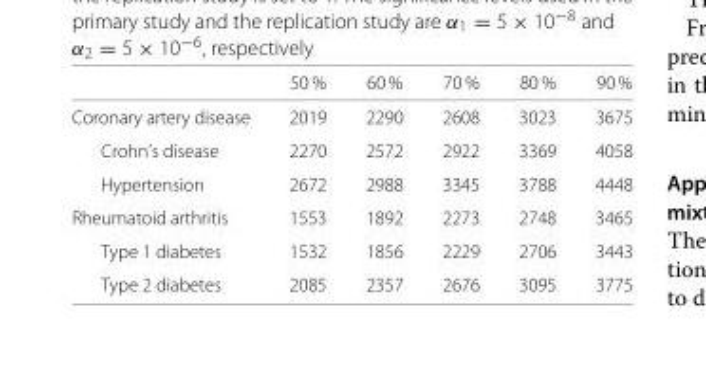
<table><thead><tr><td></td><td>50 %</td><td>60 %</td><td>70 %</td><td>80 %</td><td>90 %</td></tr></thead><tbody><tr><td>Coronary artery disease</td><td>2019</td><td>2290</td><td>2608</td><td>3023</td><td>3675</td></tr><tr><td>Crohn’s disease</td><td>2270</td><td>2572</td><td>2922</td><td>3369</td><td>4058</td></tr><tr><td>Hypertension</td><td>2672</td><td>2988</td><td>3345</td><td>3788</td><td>4448</td></tr><tr><td>Rheumatoid arthritis</td><td>1553</td><td>1892</td><td>2273</td><td>2748</td><td>3465</td></tr><tr><td>Type 1 diabetes</td><td>1532</td><td>1856</td><td>2229</td><td>2706</td><td>3443</td></tr><tr><td>Type 2 diabetes</td><td>2085</td><td>2357</td><td>2676</td><td>3095</td><td>3775</td></tr></tbody></table>